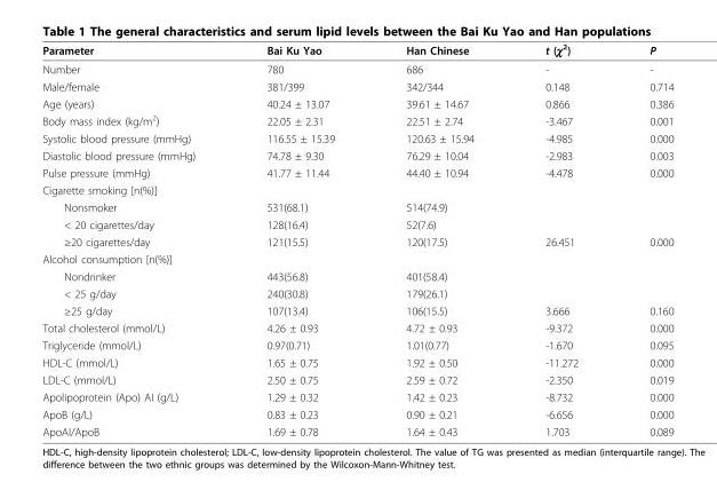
<table><thead><tr><td>Parameter</td><td>Bai Ku Yao</td><td>Han Chinese</td><td>t (χ<sup>2</sup>)</td><td>P</td></tr></thead><tbody><tr><td>Number</td><td>780</td><td>686</td><td>-</td><td>-</td></tr><tr><td>Male/female</td><td>381/399</td><td>342/344</td><td>0.148</td><td>0.714</td></tr><tr><td>Age (years)</td><td>40.24 ± 13.07</td><td>39.61 ± 14.67</td><td>0.866</td><td>0.386</td></tr><tr><td>Body mass index (kg/m<sup>2</sup>)</td><td>22.05 ± 2.31</td><td>22.51 ± 2.74</td><td>-3.467</td><td>0.001</td></tr><tr><td>Systolic blood pressure (mmHg)</td><td>116.55 ± 15.39</td><td>120.63 ± 15.94</td><td>-4.985</td><td>0.000</td></tr><tr><td>Diastolic blood pressure (mmHg)</td><td>74.78 ± 9.30</td><td>76.29 ± 10.04</td><td>-2.983</td><td>0.003</td></tr><tr><td>Pulse pressure (mmHg)</td><td>41.77 ± 11.44</td><td>44.40 ± 10.94</td><td>-4.478</td><td>0.000</td></tr><tr><td colspan="5">Cigarette smoking [n(%)]</td></tr><tr><td>Nonsmoker</td><td>531(68.1)</td><td>514(74.9)</td><td></td><td></td></tr><tr><td>&lt; 20 cigarettes/day</td><td>128(16.4)</td><td>52(7.6)</td><td></td><td></td></tr><tr><td>≥20 cigarettes/day</td><td>121(15.5)</td><td>120(17.5)</td><td>26.451</td><td>0.000</td></tr><tr><td colspan="5">Alcohol consumption [n(%)]</td></tr><tr><td>Nondrinker</td><td>443(56.8)</td><td>401(58.4)</td><td></td><td></td></tr><tr><td>&lt; 25 g/day</td><td>240(30.8)</td><td>179(26.1)</td><td></td><td></td></tr><tr><td>≥25 g/day</td><td>107(13.4)</td><td>106(15.5)</td><td>3.666</td><td>0.160</td></tr><tr><td>Total cholesterol (mmol/L)</td><td>4.26 ± 0.93</td><td>4.72 ± 0.93</td><td>-9.372</td><td>0.000</td></tr><tr><td>Triglyceride (mmol/L)</td><td>0.97(0.71)</td><td>1.01(0.77)</td><td>-1.670</td><td>0.095</td></tr><tr><td>HDL-C (mmol/L)</td><td>1.65 ± 0.75</td><td>1.92 ± 0.50</td><td>-11.272</td><td>0.000</td></tr><tr><td>LDL-C (mmol/L)</td><td>2.50 ± 0.75</td><td>2.59 ± 0.72</td><td>-2.350</td><td>0.019</td></tr><tr><td>Apolipoprotein (Apo) AI (g/L)</td><td>1.29 ± 0.32</td><td>1.42 ± 0.23</td><td>-8.732</td><td>0.000</td></tr><tr><td>ApoB (g/L)</td><td>0.83 ± 0.23</td><td>0.90 ± 0.21</td><td>-6.656</td><td>0.000</td></tr><tr><td>ApoAI/ApoB</td><td>1.69 ± 0.78</td><td>1.64 ± 0.43</td><td>1.703</td><td>0.089</td></tr></tbody></table>